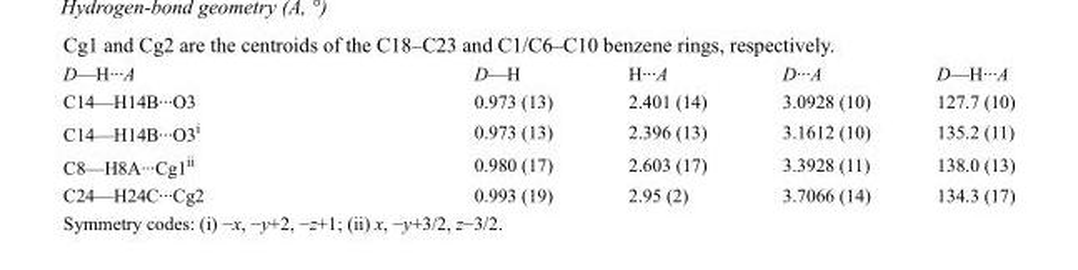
<table><tbody><tr><td>D—H···A</td><td>D—H</td><td>H···A</td><td>D···A</td><td>D—H···A</td></tr><tr><td>C14—H14B···O3</td><td>0.973 (13)</td><td>2.401 (14)</td><td>3.0928 (10)</td><td>127.7 (10)</td></tr><tr><td>C14—H14B···O3<sup>i</sup></td><td>0.973 (13)</td><td>2.396 (13)</td><td>3.1612 (10)</td><td>135.2 (11)</td></tr><tr><td>C8—H8A···Cg1<sup>ii</sup></td><td>0.980 (17)</td><td>2.603 (17)</td><td>3.3928 (11)</td><td>138.0 (13)</td></tr><tr><td>C24—H24C···Cg2</td><td>0.993 (19)</td><td>2.95 (2)</td><td>3.7066 (14)</td><td>134.3 (17)</td></tr></tbody></table>